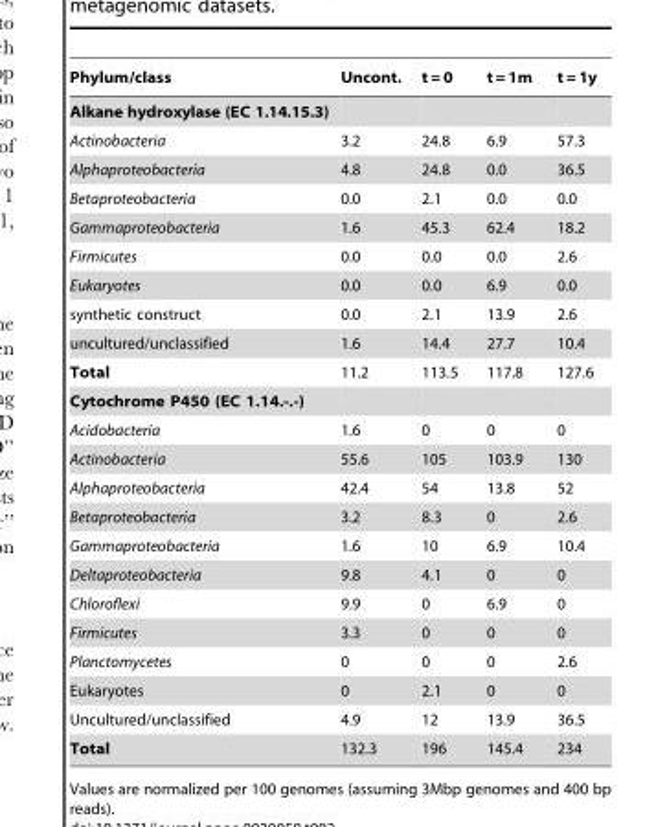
<table><thead><tr><td>Phylum/class</td><td>Uncont.</td><td>t = 0</td><td>t = 1m</td><td>t = 1y</td></tr></thead><tbody><tr><td colspan="5">Alkane hydroxylase (EC 1.14.15.3)</td></tr><tr><td>Actinobacteria</td><td>3.2</td><td>24.8</td><td>6.9</td><td>57.3</td></tr><tr><td>Alphaproteobacteria</td><td>4.8</td><td>24.8</td><td>0.0</td><td>36.5</td></tr><tr><td>Betaproteobacteria</td><td>0.0</td><td>2.1</td><td>0.0</td><td>0.0</td></tr><tr><td>Gammaproteobacteria</td><td>1.6</td><td>45.3</td><td>62.4</td><td>18.2</td></tr><tr><td>Firmicutes</td><td>0.0</td><td>0.0</td><td>0.0</td><td>2.6</td></tr><tr><td>Eukaryotes</td><td>0.0</td><td>0.0</td><td>6.9</td><td>0.0</td></tr><tr><td>synthetic construct</td><td>0.0</td><td>2.1</td><td>13.9</td><td>2.6</td></tr><tr><td>uncultured/unclassified</td><td>1.6</td><td>14.4</td><td>27.7</td><td>10.4</td></tr><tr><td>Total</td><td>11.2</td><td>113.5</td><td>117.8</td><td>127.6</td></tr><tr><td colspan="5">Cytochrome P450 (EC 1.14.-.-)</td></tr><tr><td>Acidobacteria</td><td>1.6</td><td>0</td><td>0</td><td>0</td></tr><tr><td>Actinobacteria</td><td>55.6</td><td>105</td><td>103.9</td><td>130</td></tr><tr><td>Alphaproteobacteria</td><td>42.4</td><td>54</td><td>13.8</td><td>52</td></tr><tr><td>Betaproteobacteria</td><td>3.2</td><td>8.3</td><td>0</td><td>2.6</td></tr><tr><td>Gammaproteobacteria</td><td>1.6</td><td>10</td><td>6.9</td><td>10.4</td></tr><tr><td>Deltaproteobacteria</td><td>9.8</td><td>4.1</td><td>0</td><td>0</td></tr><tr><td>Chloroflexi</td><td>9.9</td><td>0</td><td>6.9</td><td>0</td></tr><tr><td>Firmicutes</td><td>3.3</td><td>0</td><td>0</td><td>0</td></tr><tr><td>Planctomycetes</td><td>0</td><td>0</td><td>0</td><td>2.6</td></tr><tr><td>Eukaryotes</td><td>0</td><td>2.1</td><td>0</td><td>0</td></tr><tr><td>Uncultured/unclassified</td><td>4.9</td><td>12</td><td>13.9</td><td>36.5</td></tr><tr><td>Total</td><td>132.3</td><td>196</td><td>145.4</td><td>234</td></tr></tbody></table>